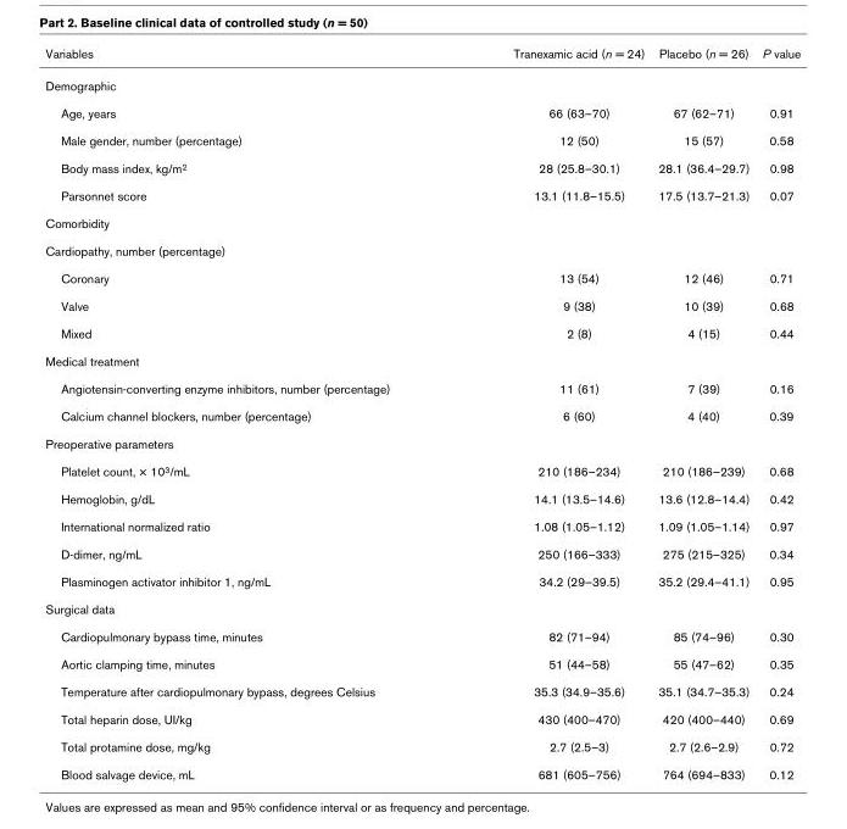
<table><thead><tr><td>Variables</td><td>Tranexamic acid (n = 24)</td><td>Placebo (n = 26)</td><td>P value</td></tr></thead><tbody><tr><td colspan="4">Demographic</td></tr><tr><td>Age, years</td><td>66 (63–70)</td><td>67 (62–71)</td><td>0.91</td></tr><tr><td>Male gender, number (percentage)</td><td>12 (50)</td><td>15 (57)</td><td>0.58</td></tr><tr><td>Body mass index, kg/m<sup>2</sup></td><td>28 (25.8–30.1)</td><td>28.1 (36.4–29.7)</td><td>0.98</td></tr><tr><td>Parsonnet score</td><td>13.1 (11.8–15.5)</td><td>17.5 (13.7–21.3)</td><td>0.07</td></tr><tr><td colspan="4">Comorbidity</td></tr><tr><td colspan="4">Cardiopathy, number (percentage)</td></tr><tr><td>Coronary</td><td>13 (54)</td><td>12 (46)</td><td>0.71</td></tr><tr><td>Valve</td><td>9 (38)</td><td>10 (39)</td><td>0.68</td></tr><tr><td>Mixed</td><td>2 (8)</td><td>4 (15)</td><td>0.44</td></tr><tr><td colspan="4">Medical treatment</td></tr><tr><td>Angiotensin-converting enzyme inhibitors, number (percentage)</td><td>11 (61)</td><td>7 (39)</td><td>0.16</td></tr><tr><td>Calcium channel blockers, number (percentage)</td><td>6 (60)</td><td>4 (40)</td><td>0.39</td></tr><tr><td colspan="4">Preoperative parameters</td></tr><tr><td>Platelet count, × 10<sup>3</sup>/mL</td><td>210 (186–234)</td><td>210 (186–239)</td><td>0.68</td></tr><tr><td>Hemoglobin, g/dL</td><td>14.1 (13.5–14.6)</td><td>13.6 (12.8–14.4)</td><td>0.42</td></tr><tr><td>International normalized ratio</td><td>1.08 (1.05–1.12)</td><td>1.09 (1.05–1.14)</td><td>0.97</td></tr><tr><td>D-dimer, ng/mL</td><td>250 (166–333)</td><td>275 (215–325)</td><td>0.34</td></tr><tr><td>Plasminogen activator inhibitor 1, ng/mL</td><td>34.2 (29–39.5)</td><td>35.2 (29.4–41.1)</td><td>0.95</td></tr><tr><td colspan="4">Surgical data</td></tr><tr><td>Cardiopulmonary bypass time, minutes</td><td>82 (71–94)</td><td>85 (74–96)</td><td>0.30</td></tr><tr><td>Aortic clamping time, minutes</td><td>51 (44–58)</td><td>55 (47–62)</td><td>0.35</td></tr><tr><td>Temperature after cardiopulmonary bypass, degrees Celsius</td><td>35.3 (34.9–35.6)</td><td>35.1 (34.7–35.3)</td><td>0.24</td></tr><tr><td>Total heparin dose, UI/kg</td><td>430 (400–470)</td><td>420 (400–440)</td><td>0.69</td></tr><tr><td>Total protamine dose, mg/kg</td><td>2.7 (2.5–3)</td><td>2.7 (2.6–2.9)</td><td>0.72</td></tr><tr><td>Blood salvage device, mL</td><td>681 (605–756)</td><td>764 (694–833)</td><td>0.12</td></tr></tbody></table>